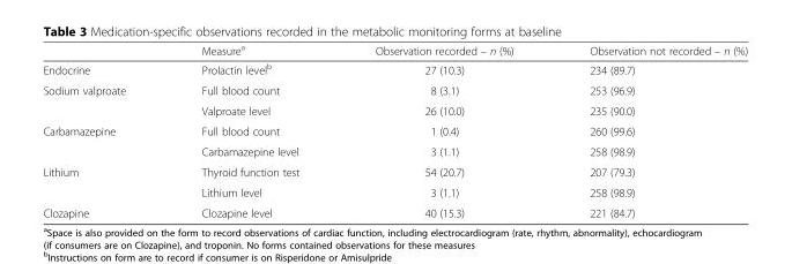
<table><thead><tr><td></td><td>Measure<sup>a</sup></td><td>Observation recorded – n (%)</td><td>Observation not recorded – n (%)</td></tr></thead><tbody><tr><td>Endocrine</td><td>Prolactin level<sup>b</sup></td><td>27 (10.3)</td><td>234 (89.7)</td></tr><tr><td rowspan="2">Sodium valproate</td><td>Full blood count</td><td>8 (3.1)</td><td>253 (96.9)</td></tr><tr><td>Valproate level</td><td>26 (10.0)</td><td>235 (90.0)</td></tr><tr><td rowspan="2">Carbamazepine</td><td>Full blood count</td><td>1 (0.4)</td><td>260 (99.6)</td></tr><tr><td>Carbamazepine level</td><td>3 (1.1)</td><td>258 (98.9)</td></tr><tr><td rowspan="2">Lithium</td><td>Thyroid function test</td><td>54 (20.7)</td><td>207 (79.3)</td></tr><tr><td>Lithium level</td><td>3 (1.1)</td><td>258 (98.9)</td></tr><tr><td>Clozapine</td><td>Clozapine level</td><td>40 (15.3)</td><td>221 (84.7)</td></tr></tbody></table>